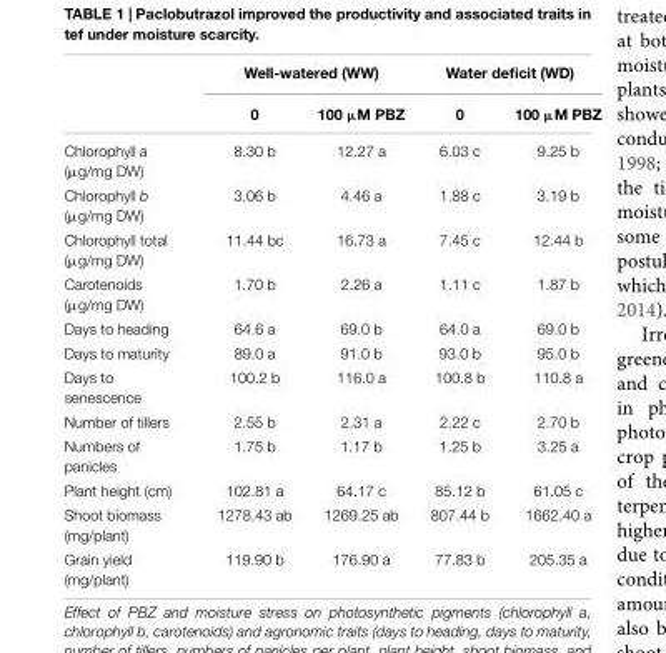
<table><thead><tr><td rowspan="2"></td><td colspan="2">Well-watered (WW)</td><td colspan="2">Water deficit (WD)</td></tr><tr><td>0</td><td>100 µM PBZ</td><td>0</td><td>100 µM PBZ</td></tr></thead><tbody><tr><td>Chlorophyll a (µg/mg DW)</td><td>8.30 b</td><td>12.27 a</td><td>6.03 c</td><td>9.25 b</td></tr><tr><td>Chlorophyll b (µg/mg DW)</td><td>3.06 b</td><td>4.46 a</td><td>1.88 c</td><td>3.19 b</td></tr><tr><td>Chlorophyll total (µg/mg DW)</td><td>11.44 bc</td><td>16.73 a</td><td>7.45 c</td><td>12.44 b</td></tr><tr><td>Carotenoids (µg/mg DW)</td><td>1.70 b</td><td>2.26 a</td><td>1.11 c</td><td>1.87 b</td></tr><tr><td>Days to heading</td><td>64.6 a</td><td>69.0 b</td><td>64.0 a</td><td>69.0 b</td></tr><tr><td>Days to maturity</td><td>89.0 a</td><td>91.0 b</td><td>93.0 b</td><td>95.0 b</td></tr><tr><td>Days to senescence</td><td>100.2 b</td><td>116.0 a</td><td>100.8 b</td><td>110.8 a</td></tr><tr><td>Number of tillers</td><td>2.55 b</td><td>2.31 a</td><td>2.22 c</td><td>2.70 b</td></tr><tr><td>Numbers of panicles</td><td>1.75 b</td><td>1.17 b</td><td>1.25 b</td><td>3.25 a</td></tr><tr><td>Plant height (cm)</td><td>102.81 a</td><td>64.17 c</td><td>85.12 b</td><td>61.05 c</td></tr><tr><td>Shoot biomass (mg/plant)</td><td>1278.43 ab</td><td>1269.25 ab</td><td>807.44 b</td><td>1662.40 a</td></tr><tr><td>Grain yield (mg/plant)</td><td>119.90 b</td><td>176.90 a</td><td>77.83 b</td><td>205.35 a</td></tr></tbody></table>